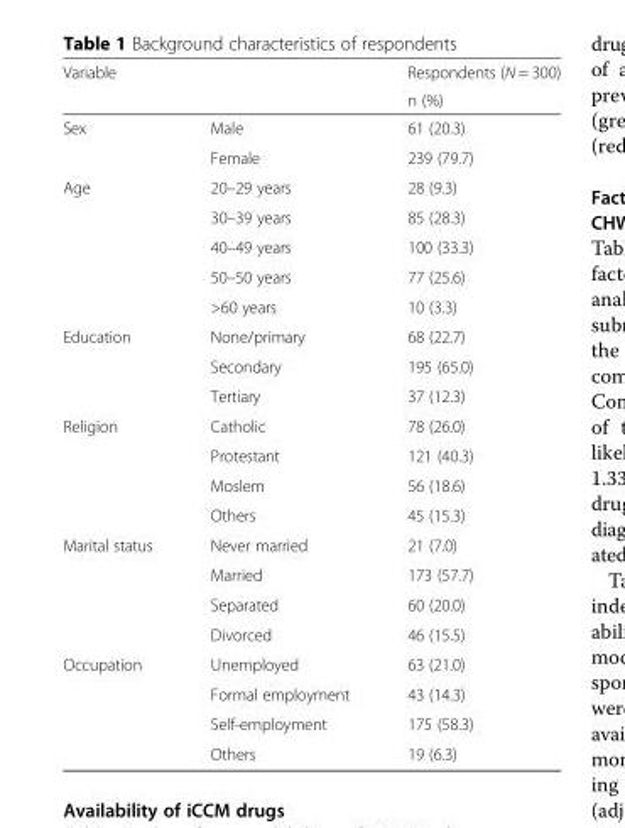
<table><thead><tr><td rowspan="2" colspan="2">Variable</td><td rowspan="3">Respondents (N = 300) n (%) 61 (20.3)</td></tr><tr></tr><tr><td>Sex</td><td>Male</td></tr></thead><tbody><tr><td></td><td>Female</td><td>239 (79.7)</td></tr><tr><td rowspan="5">Age</td><td>20–29 years</td><td>28 (9.3)</td></tr><tr><td>30–39 years</td><td>85 (28.3)</td></tr><tr><td>40–49 years</td><td>100 (33.3)</td></tr><tr><td>50–50 years</td><td>77 (25.6)</td></tr><tr><td>&gt;60 years</td><td>10 (3.3)</td></tr><tr><td rowspan="3">Education</td><td>None/primary</td><td>68 (22.7)</td></tr><tr><td>Secondary</td><td>195 (65.0)</td></tr><tr><td>Tertiary</td><td>37 (12.3)</td></tr><tr><td rowspan="4">Religion</td><td>Catholic</td><td>78 (26.0)</td></tr><tr><td>Protestant</td><td>121 (40.3)</td></tr><tr><td>Moslem</td><td>56 (18.6)</td></tr><tr><td>Others</td><td>45 (15.3)</td></tr><tr><td rowspan="4">Marital status</td><td>Never married</td><td>21 (7.0)</td></tr><tr><td>Married</td><td>173 (57.7)</td></tr><tr><td>Separated</td><td>60 (20.0)</td></tr><tr><td>Divorced</td><td>46 (15.5)</td></tr><tr><td rowspan="4">Occupation</td><td>Unemployed</td><td>63 (21.0)</td></tr><tr><td>Formal employment</td><td>43 (14.3)</td></tr><tr><td>Self-employment</td><td>175 (58.3)</td></tr><tr><td>Others</td><td>19 (6.3)</td></tr></tbody></table>